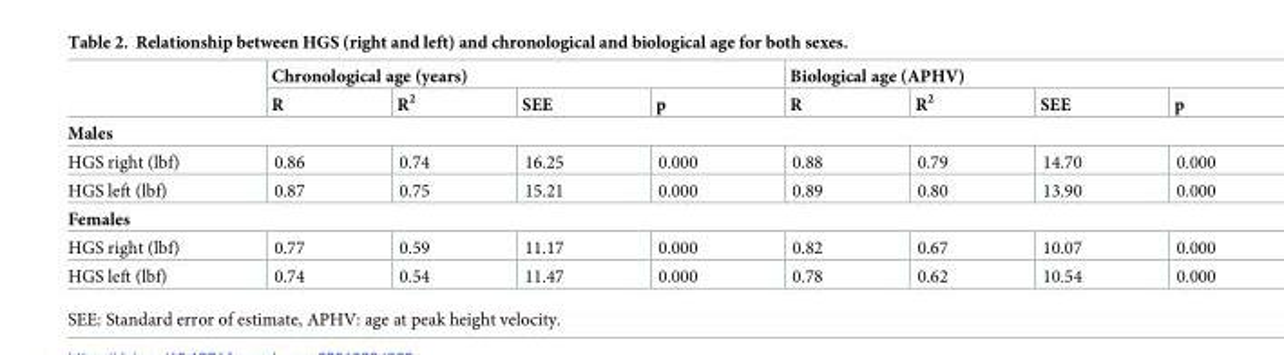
<table><thead><tr><td rowspan="2"></td><td colspan="4">Chronological age (years)</td><td colspan="4">Biological age (APHV)</td></tr><tr><td>R</td><td>R<sup>2</sup></td><td>SEE</td><td>p</td><td>R</td><td>R<sup>2</sup></td><td>SEE</td><td>p</td></tr></thead><tbody><tr><td colspan="9">Males</td></tr><tr><td>HGS right (lbf)</td><td>0.86</td><td>0.74</td><td>16.25</td><td>0.000</td><td>0.88</td><td>0.79</td><td>14.70</td><td>0.000</td></tr><tr><td>HGS left (lbf)</td><td>0.87</td><td>0.75</td><td>15.21</td><td>0.000</td><td>0.89</td><td>0.80</td><td>13.90</td><td>0.000</td></tr><tr><td colspan="9">Females</td></tr><tr><td>HGS right (lbf)</td><td>0.77</td><td>0.59</td><td>11.17</td><td>0.000</td><td>0.82</td><td>0.67</td><td>10.07</td><td>0.000</td></tr><tr><td>HGS left (lbf)</td><td>0.74</td><td>0.54</td><td>11.47</td><td>0.000</td><td>0.78</td><td>0.62</td><td>10.54</td><td>0.000</td></tr></tbody></table>